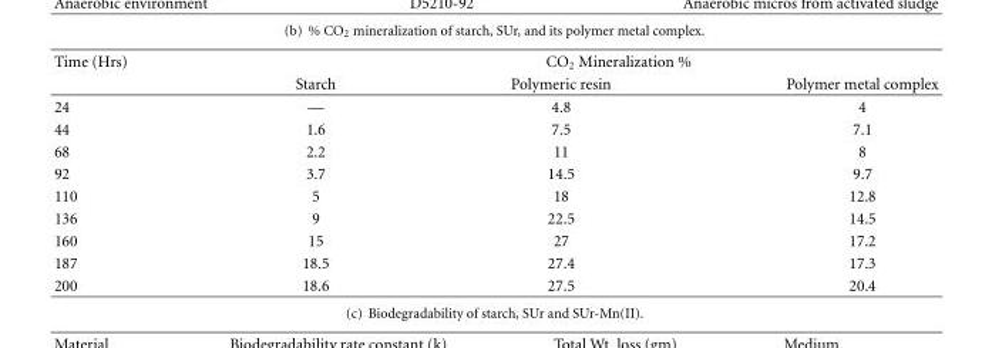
<table><thead><tr><td rowspan="2">Time (Hrs)</td><td colspan="3">CO<sub>2</sub> Mineralization %</td></tr><tr><td>Starch</td><td>Polymeric resin</td><td>Polymer metal complex</td></tr></thead><tbody><tr><td>24</td><td>—</td><td>4.8</td><td>4</td></tr><tr><td>44</td><td>1.6</td><td>7.5</td><td>7.1</td></tr><tr><td>68</td><td>2.2</td><td>11</td><td>8</td></tr><tr><td>92</td><td>3.7</td><td>14.5</td><td>9.7</td></tr><tr><td>110</td><td>5</td><td>18</td><td>12.8</td></tr><tr><td>136</td><td>9</td><td>22.5</td><td>14.5</td></tr><tr><td>160</td><td>15</td><td>27</td><td>17.2</td></tr><tr><td>187</td><td>18.5</td><td>27.4</td><td>17.3</td></tr><tr><td>200</td><td>18.6</td><td>27.5</td><td>20.4</td></tr></tbody></table>